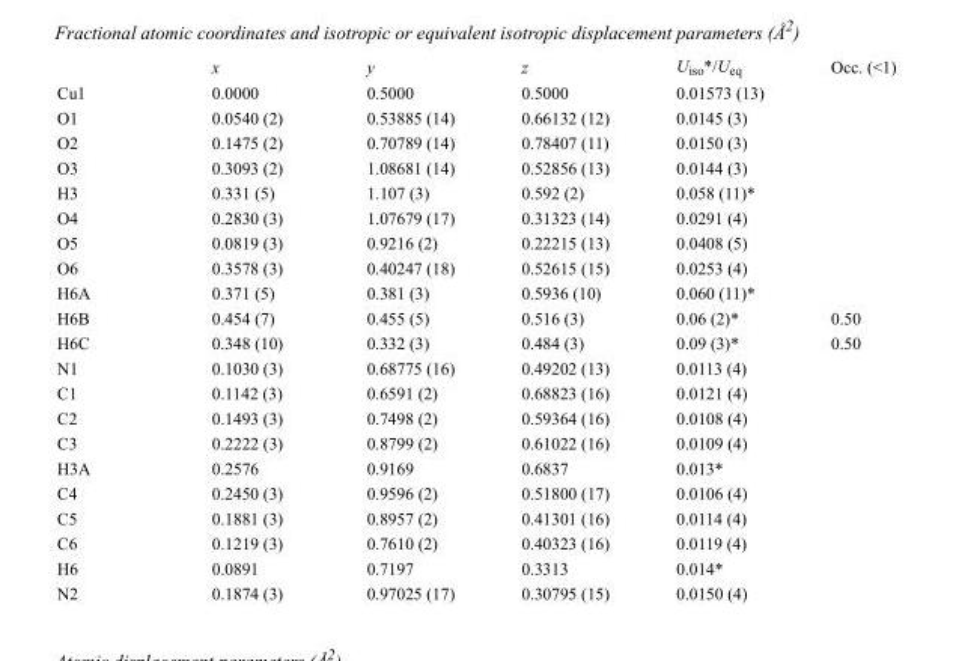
<table><thead><tr><td></td><td>x</td><td>y</td><td>z</td><td>U<sub>iso</sub>*/U<sub>eq</sub></td><td>Occ. (&lt;1)</td></tr></thead><tbody><tr><td>Cu1</td><td>0.0000</td><td>0.5000</td><td>0.5000</td><td>0.01573 (13)</td><td></td></tr><tr><td>O1</td><td>0.0540 (2)</td><td>0.53885 (14)</td><td>0.66132 (12)</td><td>0.0145 (3)</td><td></td></tr><tr><td>O2</td><td>0.1475 (2)</td><td>0.70789 (14)</td><td>0.78407 (11)</td><td>0.0150 (3)</td><td></td></tr><tr><td>O3</td><td>0.3093 (2)</td><td>1.08681 (14)</td><td>0.52856 (13)</td><td>0.0144 (3)</td><td></td></tr><tr><td>H3</td><td>0.331 (5)</td><td>1.107 (3)</td><td>0.592 (2)</td><td>0.058 (11)*</td><td></td></tr><tr><td>O4</td><td>0.2830 (3)</td><td>1.07679 (17)</td><td>0.31323 (14)</td><td>0.0291 (4)</td><td></td></tr><tr><td>O5</td><td>0.0819 (3)</td><td>0.9216 (2)</td><td>0.22215 (13)</td><td>0.0408 (5)</td><td></td></tr><tr><td>O6</td><td>0.3578 (3)</td><td>0.40247 (18)</td><td>0.52615 (15)</td><td>0.0253 (4)</td><td></td></tr><tr><td>H6A</td><td>0.371 (5)</td><td>0.381 (3)</td><td>0.5936 (10)</td><td>0.060 (11)*</td><td></td></tr><tr><td>H6B</td><td>0.454 (7)</td><td>0.455 (5)</td><td>0.516 (3)</td><td>0.06 (2)*</td><td>0.50</td></tr><tr><td>H6C</td><td>0.348 (10)</td><td>0.332 (3)</td><td>0.484 (3)</td><td>0.09 (3)*</td><td>0.50</td></tr><tr><td>N1</td><td>0.1030 (3)</td><td>0.68775 (16)</td><td>0.49202 (13)</td><td>0.0113 (4)</td><td></td></tr><tr><td>C1</td><td>0.1142 (3)</td><td>0.6591 (2)</td><td>0.68823 (16)</td><td>0.0121 (4)</td><td></td></tr><tr><td>C2</td><td>0.1493 (3)</td><td>0.7498 (2)</td><td>0.59364 (16)</td><td>0.0108 (4)</td><td></td></tr><tr><td>C3</td><td>0.2222 (3)</td><td>0.8799 (2)</td><td>0.61022 (16)</td><td>0.0109 (4)</td><td></td></tr><tr><td>H3A</td><td>0.2576</td><td>0.9169</td><td>0.6837</td><td>0.013*</td><td></td></tr><tr><td>C4</td><td>0.2450 (3)</td><td>0.9596 (2)</td><td>0.51800 (17)</td><td>0.0106 (4)</td><td></td></tr><tr><td>C5</td><td>0.1881 (3)</td><td>0.8957 (2)</td><td>0.41301 (16)</td><td>0.0114 (4)</td><td></td></tr><tr><td>C6</td><td>0.1219 (3)</td><td>0.7610 (2)</td><td>0.40323 (16)</td><td>0.0119 (4)</td><td></td></tr><tr><td>H6</td><td>0.0891</td><td>0.7197</td><td>0.3313</td><td>0.014*</td><td></td></tr><tr><td>N2</td><td>0.1874 (3)</td><td>0.97025 (17)</td><td>0.30795 (15)</td><td>0.0150 (4)</td><td></td></tr></tbody></table>